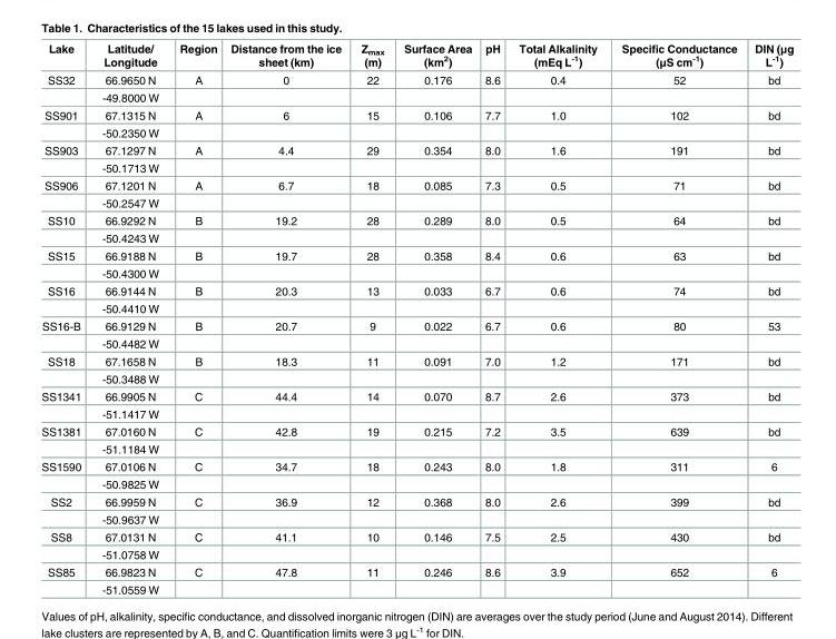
<table><thead><tr><td>Lake</td><td>Latitude/ Longitude</td><td>Region</td><td>Distance from the ice sheet (km)</td><td>Z<sub>max</sub> (m)</td><td>Surface Area (km<sup>2</sup>)</td><td>pH</td><td>Total Alkalinity (mEq L<sup>-1</sup>)</td><td>Specific Conductance (μS cm<sup>-1</sup>)</td><td>DIN (μg L<sup>-1</sup>)</td></tr></thead><tbody><tr><td rowspan="2">SS32</td><td>66.9650 N</td><td>A</td><td>0</td><td>22</td><td>0.176</td><td>8.6</td><td>0.4</td><td>52</td><td>bd</td></tr><tr><td>-49.8000 W</td><td></td><td></td><td></td><td></td><td></td><td></td><td></td><td></td></tr><tr><td rowspan="2">SS901</td><td>67.1315 N</td><td>A</td><td>6</td><td>15</td><td>0.106</td><td>7.7</td><td>1.0</td><td>102</td><td>bd</td></tr><tr><td>-50.2350 W</td><td></td><td></td><td></td><td></td><td></td><td></td><td></td><td></td></tr><tr><td rowspan="2">SS903</td><td>67.1297 N</td><td>A</td><td>4.4</td><td>29</td><td>0.354</td><td>8.0</td><td>1.6</td><td>191</td><td>bd</td></tr><tr><td>-50.1713 W</td><td></td><td></td><td></td><td></td><td></td><td></td><td></td><td></td></tr><tr><td rowspan="2">SS906</td><td>67.1201 N</td><td>A</td><td>6.7</td><td>18</td><td>0.085</td><td>7.3</td><td>0.5</td><td>71</td><td>bd</td></tr><tr><td>-50.2547 W</td><td></td><td></td><td></td><td></td><td></td><td></td><td></td><td></td></tr><tr><td rowspan="2">SS10</td><td>66.9292 N</td><td>B</td><td>19.2</td><td>28</td><td>0.289</td><td>8.0</td><td>0.5</td><td>64</td><td>bd</td></tr><tr><td>-50.4243 W</td><td></td><td></td><td></td><td></td><td></td><td></td><td></td><td></td></tr><tr><td rowspan="2">SS15</td><td>66.9188 N</td><td>B</td><td>19.7</td><td>28</td><td>0.358</td><td>8.4</td><td>0.6</td><td>63</td><td>bd</td></tr><tr><td>-50.4300 W</td><td></td><td></td><td></td><td></td><td></td><td></td><td></td><td></td></tr><tr><td rowspan="2">SS16</td><td>66.9144 N</td><td>B</td><td>20.3</td><td>13</td><td>0.033</td><td>6.7</td><td>0.6</td><td>74</td><td>bd</td></tr><tr><td>-50.4410 W</td><td></td><td></td><td></td><td></td><td></td><td></td><td></td><td></td></tr><tr><td rowspan="2">SS16-B</td><td>66.9129 N</td><td>B</td><td>20.7</td><td>9</td><td>0.022</td><td>6.7</td><td>0.6</td><td>80</td><td>53</td></tr><tr><td>-50.4482 W</td><td></td><td></td><td></td><td></td><td></td><td></td><td></td><td></td></tr><tr><td rowspan="2">SS18</td><td>67.1658 N</td><td>B</td><td>18.3</td><td>11</td><td>0.091</td><td>7.0</td><td>1.2</td><td>171</td><td>bd</td></tr><tr><td>-50.3488 W</td><td></td><td></td><td></td><td></td><td></td><td></td><td></td><td></td></tr><tr><td rowspan="2">SS1341</td><td>66.9905 N</td><td>C</td><td>44.4</td><td>14</td><td>0.070</td><td>8.7</td><td>2.6</td><td>373</td><td>bd</td></tr><tr><td>-51.1417 W</td><td></td><td></td><td></td><td></td><td></td><td></td><td></td><td></td></tr><tr><td rowspan="2">SS1381</td><td>67.0160 N</td><td>C</td><td>42.8</td><td>19</td><td>0.215</td><td>7.2</td><td>3.5</td><td>639</td><td>bd</td></tr><tr><td>-51.1184 W</td><td></td><td></td><td></td><td></td><td></td><td></td><td></td><td></td></tr><tr><td rowspan="2">SS1590</td><td>67.0106 N</td><td>C</td><td>34.7</td><td>18</td><td>0.243</td><td>8.0</td><td>1.8</td><td>311</td><td>6</td></tr><tr><td>-50.9825 W</td><td></td><td></td><td></td><td></td><td></td><td></td><td></td><td></td></tr><tr><td rowspan="2">SS2</td><td>66.9959 N</td><td>C</td><td>36.9</td><td>12</td><td>0.368</td><td>8.0</td><td>2.6</td><td>399</td><td>bd</td></tr><tr><td>-50.9637 W</td><td></td><td></td><td></td><td></td><td></td><td></td><td></td><td></td></tr><tr><td rowspan="2">SS8</td><td>67.0131 N</td><td>C</td><td>41.1</td><td>10</td><td>0.146</td><td>7.5</td><td>2.5</td><td>430</td><td>bd</td></tr><tr><td>-51.0758 W</td><td></td><td></td><td></td><td></td><td></td><td></td><td></td><td></td></tr><tr><td rowspan="2">SS85</td><td>66.9823 N</td><td>C</td><td>47.8</td><td>11</td><td>0.246</td><td>8.6</td><td>3.9</td><td>652</td><td>6</td></tr><tr><td>-51.0559 W</td><td></td><td></td><td></td><td></td><td></td><td></td><td></td><td></td></tr></tbody></table>